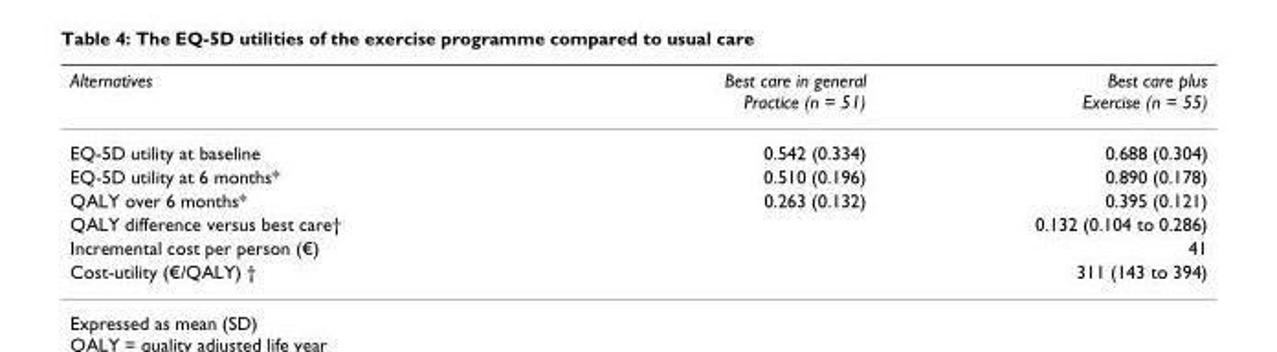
<table><thead><tr><td>Alternatives</td><td>Best care in general Practice (n = 51)</td><td>Best care plus Exercise (n = 55)</td></tr></thead><tbody><tr><td>EQ-5D utility at baseline</td><td>0.542 (0.334)</td><td>0.688 (0.304)</td></tr><tr><td>EQ-5D utility at 6 months*</td><td>0.510 (0.196)</td><td>0.890 (0.178)</td></tr><tr><td>QALY over 6 months*</td><td>0.263 (0.132)</td><td>0.395 (0.121)</td></tr><tr><td>QALY difference versus best care†</td><td></td><td>0.132 (0.104 to 0.286)</td></tr><tr><td>Incremental cost per person (€)</td><td></td><td>41</td></tr><tr><td>Cost-utility (€/QALY) †</td><td></td><td>311 (143 to 394)</td></tr></tbody></table>